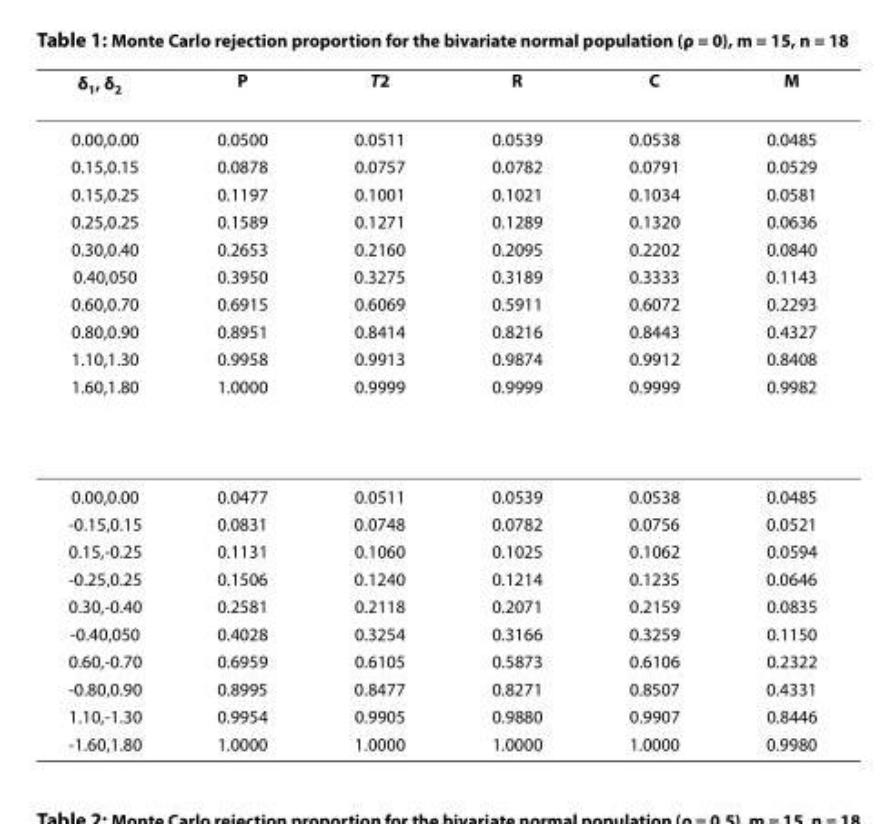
<table><thead><tr><td>δ<sub>1</sub>, δ<sub>2</sub></td><td>P</td><td>T<sup>2</sup></td><td>R</td><td>C</td><td>M</td></tr></thead><tbody><tr><td>0.00,0.00</td><td>0.0500</td><td>0.0511</td><td>0.0539</td><td>0.0538</td><td>0.0485</td></tr><tr><td>0.15,0.15</td><td>0.0878</td><td>0.0757</td><td>0.0782</td><td>0.0791</td><td>0.0529</td></tr><tr><td>0.15,0.25</td><td>0.1197</td><td>0.1001</td><td>0.1021</td><td>0.1034</td><td>0.0581</td></tr><tr><td>0.25,0.25</td><td>0.1589</td><td>0.1271</td><td>0.1289</td><td>0.1320</td><td>0.0636</td></tr><tr><td>0.30,0.40</td><td>0.2653</td><td>0.2160</td><td>0.2095</td><td>0.2202</td><td>0.0840</td></tr><tr><td>0.40,050</td><td>0.3950</td><td>0.3275</td><td>0.3189</td><td>0.3333</td><td>0.1143</td></tr><tr><td>0.60,0.70</td><td>0.6915</td><td>0.6069</td><td>0.5911</td><td>0.6072</td><td>0.2293</td></tr><tr><td>0.80,0.90</td><td>0.8951</td><td>0.8414</td><td>0.8216</td><td>0.8443</td><td>0.4327</td></tr><tr><td>1.10,1.30</td><td>0.9958</td><td>0.9913</td><td>0.9874</td><td>0.9912</td><td>0.8408</td></tr><tr><td>1.60,1.80</td><td>1.0000</td><td>0.9999</td><td>0.9999</td><td>0.9999</td><td>0.9982</td></tr><tr><td>0.00,0.00</td><td>0.0477</td><td>0.0511</td><td>0.0539</td><td>0.0538</td><td>0.0485</td></tr><tr><td>-0.15,0.15</td><td>0.0831</td><td>0.0748</td><td>0.0782</td><td>0.0756</td><td>0.0521</td></tr><tr><td>0.15,-0.25</td><td>0.1131</td><td>0.1060</td><td>0.1025</td><td>0.1062</td><td>0.0594</td></tr><tr><td>-0.25,0.25</td><td>0.1506</td><td>0.1240</td><td>0.1214</td><td>0.1235</td><td>0.0646</td></tr><tr><td>0.30,-0.40</td><td>0.2581</td><td>0.2118</td><td>0.2071</td><td>0.2159</td><td>0.0835</td></tr><tr><td>-0.40,050</td><td>0.4028</td><td>0.3254</td><td>0.3166</td><td>0.3259</td><td>0.1150</td></tr><tr><td>0.60,-0.70</td><td>0.6959</td><td>0.6105</td><td>0.5873</td><td>0.6106</td><td>0.2322</td></tr><tr><td>-0.80,0.90</td><td>0.8995</td><td>0.8477</td><td>0.8271</td><td>0.8507</td><td>0.4331</td></tr><tr><td>1.10,-1.30</td><td>0.9954</td><td>0.9905</td><td>0.9880</td><td>0.9907</td><td>0.8446</td></tr><tr><td>-1.60,1.80</td><td>1.0000</td><td>1.0000</td><td>1.0000</td><td>1.0000</td><td>0.9980</td></tr></tbody></table>